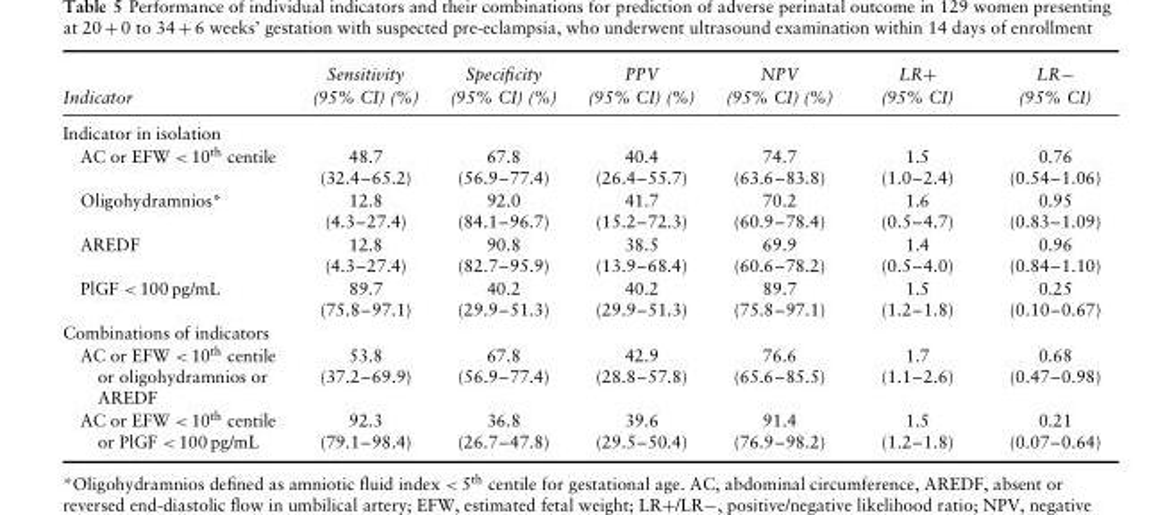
<table><thead><tr><td>Indicator</td><td>Sensitivity (95% CI) (%)</td><td>Specificity (95% CI) (%)</td><td>PPV (95% CI) (%)</td><td>NPV (95% CI) (%)</td><td>LR+ (95% CI)</td><td>LR− (95% CI)</td></tr></thead><tbody><tr><td colspan="7">Indicator in isolation</td></tr><tr><td>AC or EFW &lt; 10<sup>th</sup> centile</td><td>48.7 (32.4–65.2)</td><td>67.8 (56.9–77.4)</td><td>40.4 (26.4–55.7)</td><td>74.7 (63.6–83.8)</td><td>1.5 (1.0–2.4)</td><td>0.76 (0.54–1.06)</td></tr><tr><td>Oligohydramnios*</td><td>12.8 (4.3–27.4)</td><td>92.0 (84.1–96.7)</td><td>41.7 (15.2–72.3)</td><td>70.2 (60.9–78.4)</td><td>1.6 (0.5–4.7)</td><td>0.95 (0.83–1.09)</td></tr><tr><td>AREDF</td><td>12.8 (4.3–27.4)</td><td>90.8 (82.7–95.9)</td><td>38.5 (13.9–68.4)</td><td>69.9 (60.6–78.2)</td><td>1.4 (0.5–4.0)</td><td>0.96 (0.84–1.10)</td></tr><tr><td>PlGF &lt; 100 pg/mL</td><td>89.7 (75.8–97.1)</td><td>40.2 (29.9–51.3)</td><td>40.2 (29.9–51.3)</td><td>89.7 (75.8–97.1)</td><td>1.5 (1.2–1.8)</td><td>0.25 (0.10–0.67)</td></tr><tr><td colspan="7">Combinations of indicators</td></tr><tr><td>AC or EFW &lt; 10<sup>th</sup> centile or oligohydramnios or AREDF</td><td>53.8 (37.2–69.9)</td><td>67.8 (56.9–77.4)</td><td>42.9 (28.8–57.8)</td><td>76.6 (65.6–85.5)</td><td>1.7 (1.1–2.6)</td><td>0.68 (0.47–0.98)</td></tr><tr><td>AC or EFW &lt; 10<sup>th</sup> centile or PlGF &lt; 100 pg/mL</td><td>92.3 (79.1–98.4)</td><td>36.8 (26.7–47.8)</td><td>39.6 (29.5–50.4)</td><td>91.4 (76.9–98.2)</td><td>1.5 (1.2–1.8)</td><td>0.21 (0.07–0.64)</td></tr></tbody></table>